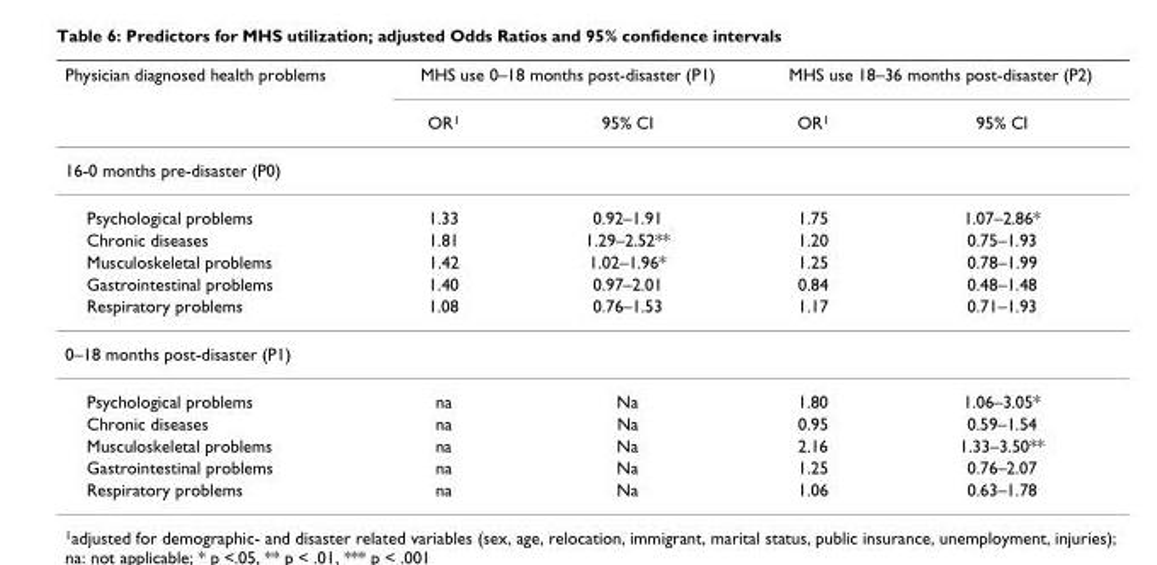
<table><thead><tr><td rowspan="2">Physician diagnosed health problems</td><td colspan="2">MHS use 0–18 months post-disaster (P1)</td><td colspan="2">MHS use 18–36 months post-disaster (P2)</td></tr><tr><td>OR<sup>1</sup></td><td>95% CI</td><td>OR<sup>1</sup></td><td>95% CI</td></tr></thead><tbody><tr><td colspan="5">16-0 months pre-disaster (P0)</td></tr><tr><td>Psychological problems</td><td>1.33</td><td>0.92–1.91</td><td>1.75</td><td>1.07–2.86*</td></tr><tr><td>Chronic diseases</td><td>1.81</td><td>1.29–2.52**</td><td>1.20</td><td>0.75–1.93</td></tr><tr><td>Musculoskeletal problems</td><td>1.42</td><td>1.02–1.96*</td><td>1.25</td><td>0.78–1.99</td></tr><tr><td>Gastrointestinal problems</td><td>1.40</td><td>0.97–2.01</td><td>0.84</td><td>0.48–1.48</td></tr><tr><td>Respiratory problems</td><td>1.08</td><td>0.76–1.53</td><td>1.17</td><td>0.71–1.93</td></tr><tr><td colspan="5">0–18 months post-disaster (P1)</td></tr><tr><td>Psychological problems</td><td>na</td><td>Na</td><td>1.80</td><td>1.06–3.05*</td></tr><tr><td>Chronic diseases</td><td>na</td><td>Na</td><td>0.95</td><td>0.59–1.54</td></tr><tr><td>Musculoskeletal problems</td><td>na</td><td>Na</td><td>2.16</td><td>1.33–3.50**</td></tr><tr><td>Gastrointestinal problems</td><td>na</td><td>Na</td><td>1.25</td><td>0.76–2.07</td></tr><tr><td>Respiratory problems</td><td>na</td><td>Na</td><td>1.06</td><td>0.63–1.78</td></tr></tbody></table>